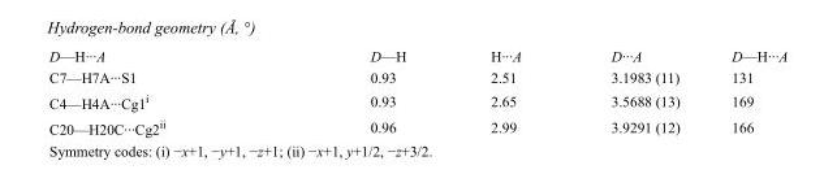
<table><tbody><tr><td>D—H···A</td><td>D—H</td><td>H···A</td><td>D···A</td><td>D—H···A</td></tr><tr><td>C7—H7A···S1</td><td>0.93</td><td>2.51</td><td>3.1983 (11)</td><td>131</td></tr><tr><td>C4—H4A···Cg1<sup>i</sup></td><td>0.93</td><td>2.65</td><td>3.5688 (13)</td><td>169</td></tr><tr><td>C20—H20C···Cg2<sup>ii</sup></td><td>0.96</td><td>2.99</td><td>3.9291 (12)</td><td>166</td></tr></tbody></table>